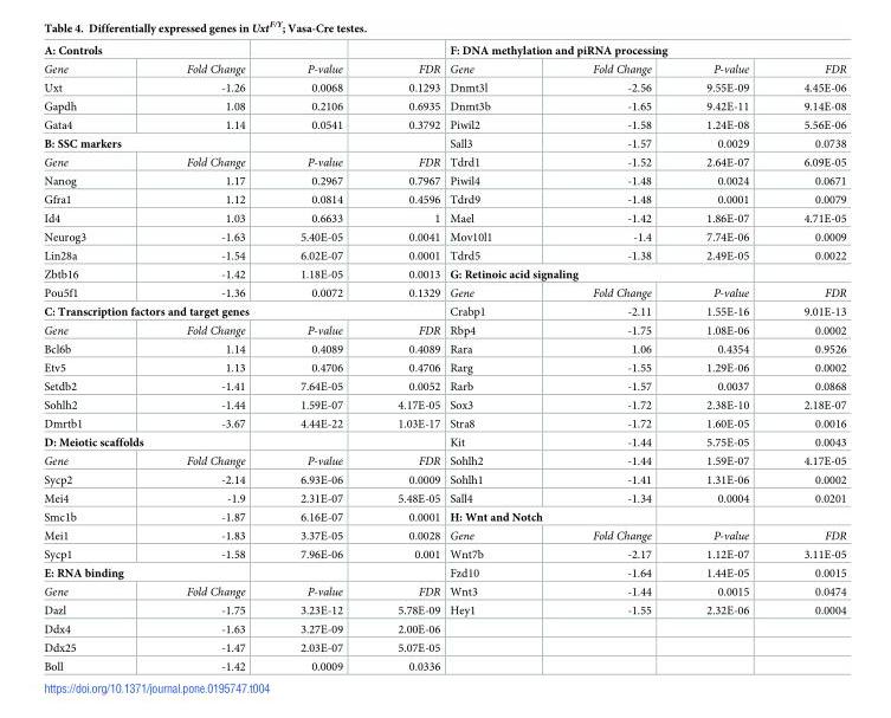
<table><tbody><tr><td colspan="2">A: Controls</td><td></td><td></td><td colspan="4">F: DNA methylation and piRNA processing</td></tr><tr><td>Gene</td><td>Fold Change</td><td>P-value</td><td>FDR</td><td>Gene</td><td>Fold Change</td><td>P-value</td><td>FDR</td></tr><tr><td>Uxt</td><td>-1.26</td><td>0.0068</td><td>0.1293</td><td>Dnmt3l</td><td>-2.56</td><td>9.55E-09</td><td>4.45E-06</td></tr><tr><td>Gapdh</td><td>1.08</td><td>0.2106</td><td>0.6935</td><td>Dnmt3b</td><td>-1.65</td><td>9.42E-11</td><td>9.14E-08</td></tr><tr><td>Gata4</td><td>1.14</td><td>0.0541</td><td>0.3792</td><td>Piwil2</td><td>-1.58</td><td>1.24E-08</td><td>5.56E-06</td></tr><tr><td colspan="2">B: SSC markers</td><td></td><td></td><td>Sall3</td><td>-1.57</td><td>0.0029</td><td>0.0738</td></tr><tr><td>Gene</td><td>Fold Change</td><td>P-value</td><td>FDR</td><td>Tdrd1</td><td>-1.52</td><td>2.64E-07</td><td>6.09E-05</td></tr><tr><td>Nanog</td><td>1.17</td><td>0.2967</td><td>0.7967</td><td>Piwil4</td><td>-1.48</td><td>0.0024</td><td>0.0671</td></tr><tr><td>Gfra1</td><td>1.12</td><td>0.0814</td><td>0.4596</td><td>Tdrd9</td><td>-1.48</td><td>0.0001</td><td>0.0079</td></tr><tr><td>Id4</td><td>1.03</td><td>0.6633</td><td>1</td><td>Mael</td><td>-1.42</td><td>1.86E-07</td><td>4.71E-05</td></tr><tr><td>Neurog3</td><td>-1.63</td><td>5.40E-05</td><td>0.0041</td><td>Mov10l1</td><td>-1.4</td><td>7.74E-06</td><td>0.0009</td></tr><tr><td>Lin28a</td><td>-1.54</td><td>6.02E-07</td><td>0.0001</td><td>Tdrd5</td><td>-1.38</td><td>2.49E-05</td><td>0.0022</td></tr><tr><td>Zbtb16</td><td>-1.42</td><td>1.18E-05</td><td>0.0013</td><td colspan="3">G: Retinoic acid signaling</td><td></td></tr><tr><td>Pou5f1</td><td>-1.36</td><td>0.0072</td><td>0.1329</td><td>Gene</td><td>Fold Change</td><td>P-value</td><td>FDR</td></tr><tr><td colspan="4">C: Transcription factors and target genes</td><td>Crabp1</td><td>-2.11</td><td>1.55E-16</td><td>9.01E-13</td></tr><tr><td>Gene</td><td>Fold Change</td><td>P-value</td><td>FDR</td><td>Rbp4</td><td>-1.75</td><td>1.08E-06</td><td>0.0002</td></tr><tr><td>Bcl6b</td><td>1.14</td><td>0.4089</td><td>0.4089</td><td>Rara</td><td>1.06</td><td>0.4354</td><td>0.9526</td></tr><tr><td>Etv5</td><td>1.13</td><td>0.4706</td><td>0.4706</td><td>Rarg</td><td>-1.55</td><td>1.29E-06</td><td>0.0002</td></tr><tr><td>Setdb2</td><td>-1.41</td><td>7.64E-05</td><td>0.0052</td><td>Rarb</td><td>-1.57</td><td>0.0037</td><td>0.0868</td></tr><tr><td>Sohlh2</td><td>-1.44</td><td>1.59E-07</td><td>4.17E-05</td><td>Sox3</td><td>-1.72</td><td>2.38E-10</td><td>2.18E-07</td></tr><tr><td>Dmrtb1</td><td>-3.67</td><td>4.44E-22</td><td>1.03E-17</td><td>Stra8</td><td>-1.72</td><td>1.60E-05</td><td>0.0016</td></tr><tr><td colspan="2">D: Meiotic scaffolds</td><td></td><td></td><td>Kit</td><td>-1.44</td><td>5.75E-05</td><td>0.0043</td></tr><tr><td>Gene</td><td>Fold Change</td><td>P-value</td><td>FDR</td><td>Sohlh2</td><td>-1.44</td><td>1.59E-07</td><td>4.17E-05</td></tr><tr><td>Sycp2</td><td>-2.14</td><td>6.93E-06</td><td>0.0009</td><td>Sohlh1</td><td>-1.41</td><td>1.31E-06</td><td>0.0002</td></tr><tr><td>Mei4</td><td>-1.9</td><td>2.31E-07</td><td>5.48E-05</td><td>Sall4</td><td>-1.34</td><td>0.0004</td><td>0.0201</td></tr><tr><td>Smc1b</td><td>-1.87</td><td>6.16E-07</td><td>0.0001</td><td colspan="2">H: Wnt and Notch</td><td></td><td></td></tr><tr><td>Mei1</td><td>-1.83</td><td>3.37E-05</td><td>0.0028</td><td>Gene</td><td>Fold Change</td><td>P-value</td><td>FDR</td></tr><tr><td>Sycp1</td><td>-1.58</td><td>7.96E-06</td><td>0.001</td><td>Wnt7b</td><td>-2.17</td><td>1.12E-07</td><td>3.11E-05</td></tr><tr><td colspan="2">E: RNA binding</td><td></td><td></td><td>Fzd10</td><td>-1.64</td><td>1.44E-05</td><td>0.0015</td></tr><tr><td>Gene</td><td>Fold Change</td><td>P-value</td><td>FDR</td><td>Wnt3</td><td>-1.44</td><td>0.0015</td><td>0.0474</td></tr><tr><td>Dazl</td><td>-1.75</td><td>3.23E-12</td><td>5.78E-09</td><td>Hey1</td><td>-1.55</td><td>2.32E-06</td><td>0.0004</td></tr><tr><td>Ddx4</td><td>-1.63</td><td>3.27E-09</td><td>2.00E-06</td><td></td><td></td><td></td><td></td></tr><tr><td>Ddx25</td><td>-1.47</td><td>2.03E-07</td><td>5.07E-05</td><td></td><td></td><td></td><td></td></tr><tr><td>Boll</td><td>-1.42</td><td>0.0009</td><td>0.0336</td><td></td><td></td><td></td><td></td></tr></tbody></table>